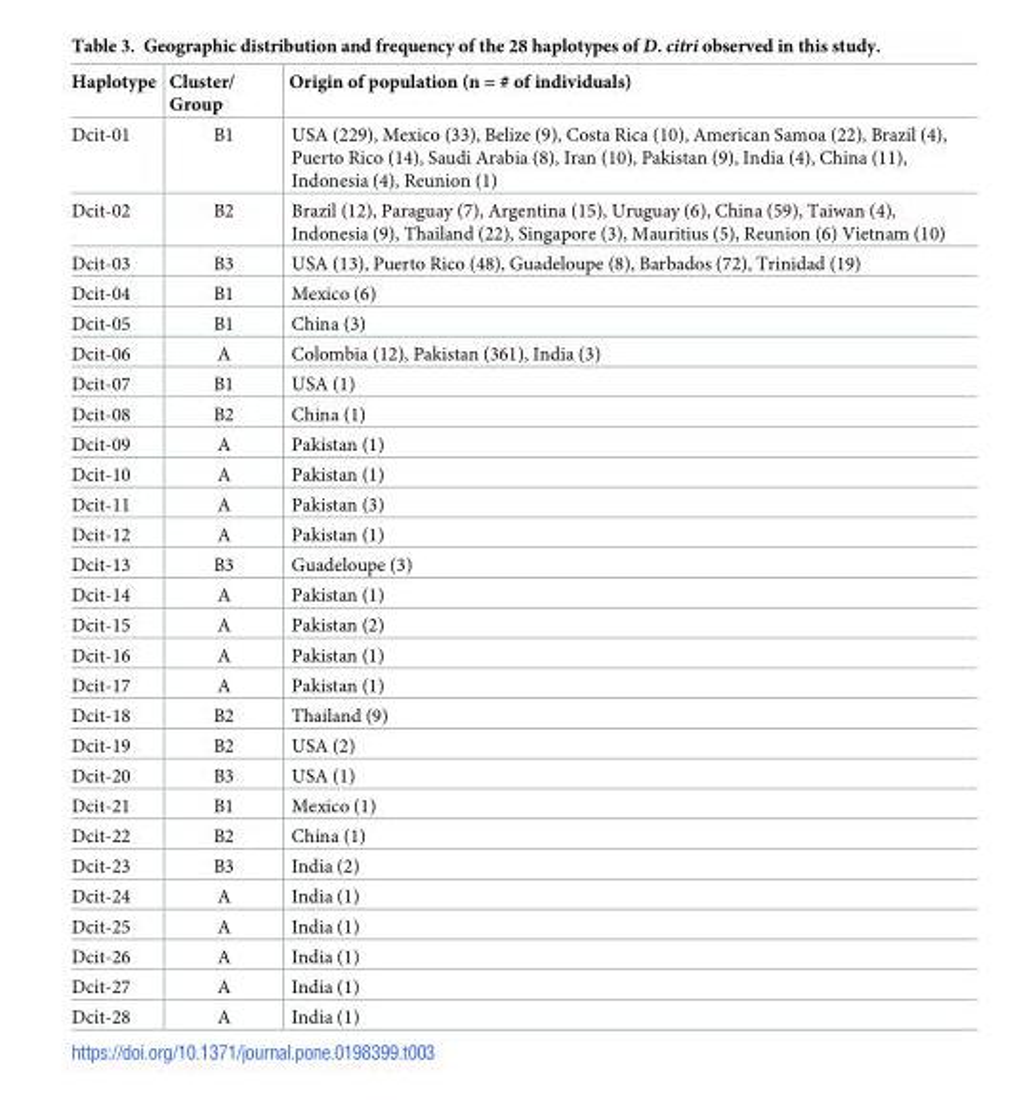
<table><thead><tr><td>Haplotype</td><td>Cluster/ Group</td><td>Origin of population (n = # of individuals)</td></tr></thead><tbody><tr><td>Dcit-01</td><td>B1</td><td>USA (229), Mexico (33), Belize (9), Costa Rica (10), American Samoa (22), Brazil (4), Puerto Rico (14), Saudi Arabia (8), Iran (10), Pakistan (9), India (4), China (11), Indonesia (4), Reunion (1)</td></tr><tr><td>Dcit-02</td><td>B2</td><td>Brazil (12), Paraguay (7), Argentina (15), Uruguay (6), China (59), Taiwan (4), Indonesia (9), Thailand (22), Singapore (3), Mauritius (5), Reunion (6) Vietnam (10)</td></tr><tr><td>Dcit-03</td><td>B3</td><td>USA (13), Puerto Rico (48), Guadeloupe (8), Barbados (72), Trinidad (19)</td></tr><tr><td>Dcit-04</td><td>B1</td><td>Mexico (6)</td></tr><tr><td>Dcit-05</td><td>B1</td><td>China (3)</td></tr><tr><td>Dcit-06</td><td>A</td><td>Colombia (12), Pakistan (361), India (3)</td></tr><tr><td>Dcit-07</td><td>B1</td><td>USA (1)</td></tr><tr><td>Dcit-08</td><td>B2</td><td>China (1)</td></tr><tr><td>Dcit-09</td><td>A</td><td>Pakistan (1)</td></tr><tr><td>Dcit-10</td><td>A</td><td>Pakistan (1)</td></tr><tr><td>Dcit-11</td><td>A</td><td>Pakistan (3)</td></tr><tr><td>Dcit-12</td><td>A</td><td>Pakistan (1)</td></tr><tr><td>Dcit-13</td><td>B3</td><td>Guadeloupe (3)</td></tr><tr><td>Dcit-14</td><td>A</td><td>Pakistan (1)</td></tr><tr><td>Dcit-15</td><td>A</td><td>Pakistan (2)</td></tr><tr><td>Dcit-16</td><td>A</td><td>Pakistan (1)</td></tr><tr><td>Dcit-17</td><td>A</td><td>Pakistan (1)</td></tr><tr><td>Dcit-18</td><td>B2</td><td>Thailand (9)</td></tr><tr><td>Dcit-19</td><td>B2</td><td>USA (2)</td></tr><tr><td>Dcit-20</td><td>B3</td><td>USA (1)</td></tr><tr><td>Dcit-21</td><td>B1</td><td>Mexico (1)</td></tr><tr><td>Dcit-22</td><td>B2</td><td>China (1)</td></tr><tr><td>Dcit-23</td><td>B3</td><td>India (2)</td></tr><tr><td>Dcit-24</td><td>A</td><td>India (1)</td></tr><tr><td>Dcit-25</td><td>A</td><td>India (1)</td></tr><tr><td>Dcit-26</td><td>A</td><td>India (1)</td></tr><tr><td>Dcit-27</td><td>A</td><td>India (1)</td></tr><tr><td>Dcit-28</td><td>A</td><td>India (1)</td></tr></tbody></table>